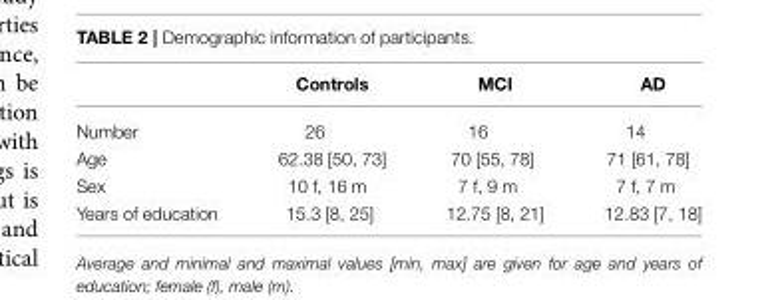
<table><thead><tr><td></td><td>Controls</td><td>MCI</td><td>AD</td></tr></thead><tbody><tr><td>Number</td><td>26</td><td>16</td><td>14</td></tr><tr><td>Age</td><td>62.38 [50, 73]</td><td>70 [55, 78]</td><td>71 [61, 78]</td></tr><tr><td>Sex</td><td>10 f, 16 m</td><td>7 f, 9 m</td><td>7 f, 7 m</td></tr><tr><td>Years of education</td><td>15.3 [8, 25]</td><td>12.75 [8, 21]</td><td>12.83 [7, 18]</td></tr></tbody></table>